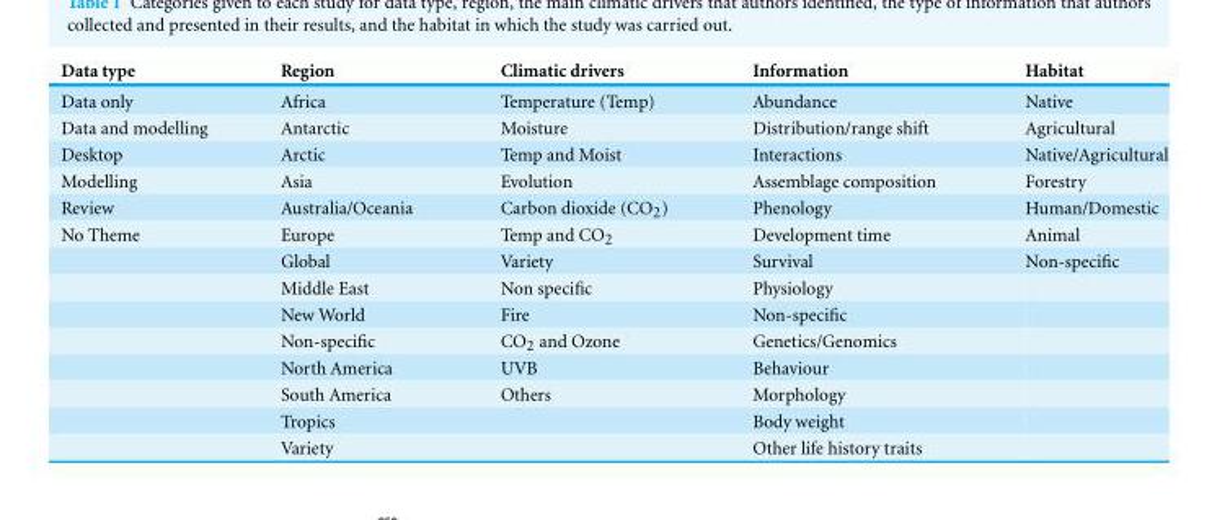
<table><thead><tr><td>Data type</td><td>Region</td><td>Climatic drivers</td><td>Information</td><td>Habitat</td></tr></thead><tbody><tr><td>Data only</td><td>Africa</td><td>Temperature (Temp)</td><td>Abundance</td><td>Native</td></tr><tr><td>Data and modelling</td><td>Antarctic</td><td>Moisture</td><td>Distribution/range shift</td><td>Agricultural</td></tr><tr><td>Desktop</td><td>Arctic</td><td>Temp and Moist</td><td>Interactions</td><td>Native/Agricultural</td></tr><tr><td>Modelling</td><td>Asia</td><td>Evolution</td><td>Assemblage composition</td><td>Forestry</td></tr><tr><td>Review</td><td>Australia/Oceania</td><td>Carbon dioxide (CO<sub>2</sub>)</td><td>Phenology</td><td>Human/Domestic</td></tr><tr><td rowspan="9">No Theme</td><td>Europe</td><td>Temp and CO<sub>2</sub></td><td>Development time</td><td>Animal</td></tr><tr><td>Global</td><td>Variety</td><td>Survival</td><td>Non-specific</td></tr><tr><td>Middle East</td><td>Non specific</td><td>Physiology</td><td></td></tr><tr><td>New World</td><td>Fire</td><td>Non-specific</td><td></td></tr><tr><td>Non-specific</td><td>CO<sub>2</sub> and Ozone</td><td>Genetics/Genomics</td><td></td></tr><tr><td>North America</td><td>UVB</td><td>Behaviour</td><td></td></tr><tr><td>South America</td><td>Others</td><td>Morphology</td><td></td></tr><tr><td>Tropics</td><td></td><td>Body weight</td><td></td></tr><tr><td>Variety</td><td></td><td>Other life history traits</td><td></td></tr></tbody></table>